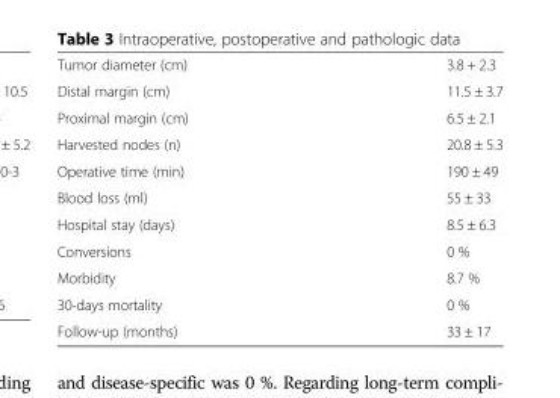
<table><tbody><tr><td>Tumor diameter (cm)</td><td>3.8 + 2.3</td></tr><tr><td>Distal margin (cm)</td><td>11.5 ± 3.7</td></tr><tr><td>Proximal margin (cm)</td><td>6.5 ± 2.1</td></tr><tr><td>Harvested nodes (n)</td><td>20.8 ± 5.3</td></tr><tr><td>Operative time (min)</td><td>190 ± 49</td></tr><tr><td>Blood loss (ml)</td><td>55 ± 33</td></tr><tr><td>Hospital stay (days)</td><td>8.5 ± 6.3</td></tr><tr><td>Conversions</td><td>0 %</td></tr><tr><td>Morbidity</td><td>8.7 %</td></tr><tr><td>30-days mortality</td><td>0 %</td></tr><tr><td>Follow-up (months)</td><td>33 ± 17</td></tr></tbody></table>